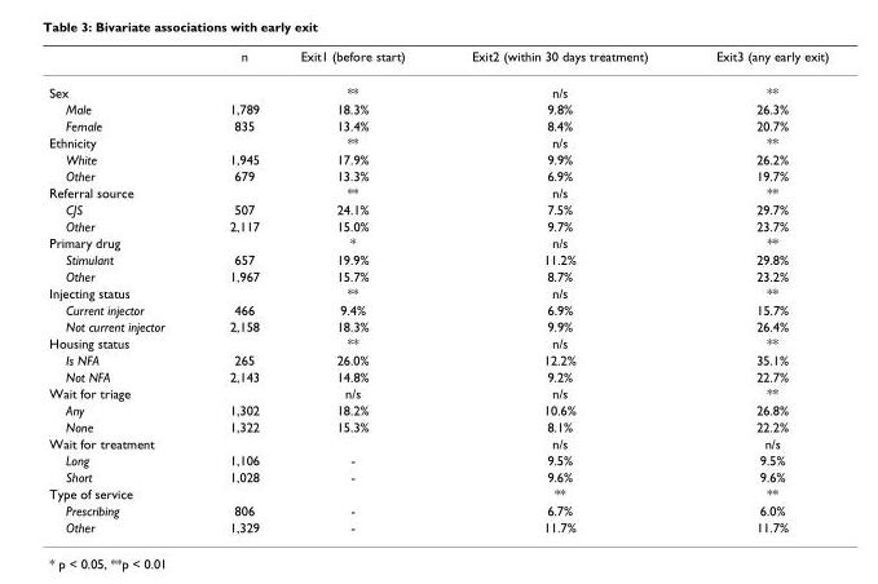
<table><thead><tr><td></td><td>n</td><td>Exit1 (before start)</td><td>Exit2 (within 30 days treatment)</td><td>Exit3 (any early exit)</td></tr></thead><tbody><tr><td>Sex</td><td></td><td>**</td><td>n/s</td><td>**</td></tr><tr><td>Male</td><td>1,789</td><td>18.3%</td><td>9.8%</td><td>26.3%</td></tr><tr><td>Female</td><td>835</td><td>13.4%</td><td>8.4%</td><td>20.7%</td></tr><tr><td>Ethnicity</td><td></td><td>**</td><td>n/s</td><td>**</td></tr><tr><td>White</td><td>1,945</td><td>17.9%</td><td>9.9%</td><td>26.2%</td></tr><tr><td>Other</td><td>679</td><td>13.3%</td><td>6.9%</td><td>19.7%</td></tr><tr><td>Referral source</td><td></td><td>**</td><td>n/s</td><td>**</td></tr><tr><td>CJS</td><td>507</td><td>24.1%</td><td>7.5%</td><td>29.7%</td></tr><tr><td>Other</td><td>2,117</td><td>15.0%</td><td>9.7%</td><td>23.7%</td></tr><tr><td>Primary drug</td><td></td><td>*</td><td>n/s</td><td>**</td></tr><tr><td>Stimulant</td><td>657</td><td>19.9%</td><td>11.2%</td><td>29.8%</td></tr><tr><td>Other</td><td>1,967</td><td>15.7%</td><td>8.7%</td><td>23.2%</td></tr><tr><td>Injecting status</td><td></td><td>**</td><td>n/s</td><td>**</td></tr><tr><td>Current injector</td><td>466</td><td>9.4%</td><td>6.9%</td><td>15.7%</td></tr><tr><td>Not current injector</td><td>2,158</td><td>18.3%</td><td>9.9%</td><td>26.4%</td></tr><tr><td>Housing status</td><td></td><td>**</td><td>n/s</td><td>**</td></tr><tr><td>Is NFA</td><td>265</td><td>26.0%</td><td>12.2%</td><td>35.1%</td></tr><tr><td>Not NFA</td><td>2,143</td><td>14.8%</td><td>9.2%</td><td>22.7%</td></tr><tr><td>Wait for triage</td><td></td><td>n/s</td><td>n/s</td><td>**</td></tr><tr><td>Any</td><td>1,302</td><td>18.2%</td><td>10.6%</td><td>26.8%</td></tr><tr><td>None</td><td>1,322</td><td>15.3%</td><td>8.1%</td><td>22.2%</td></tr><tr><td>Wait for treatment</td><td></td><td></td><td>n/s</td><td>n/s</td></tr><tr><td>Long</td><td>1,106</td><td>-</td><td>9.5%</td><td>9.5%</td></tr><tr><td>Short</td><td>1,028</td><td>-</td><td>9.6%</td><td>9.6%</td></tr><tr><td>Type of service</td><td></td><td></td><td>**</td><td>**</td></tr><tr><td>Prescribing</td><td>806</td><td>-</td><td>6.7%</td><td>6.0%</td></tr><tr><td>Other</td><td>1,329</td><td>-</td><td>11.7%</td><td>11.7%</td></tr></tbody></table>